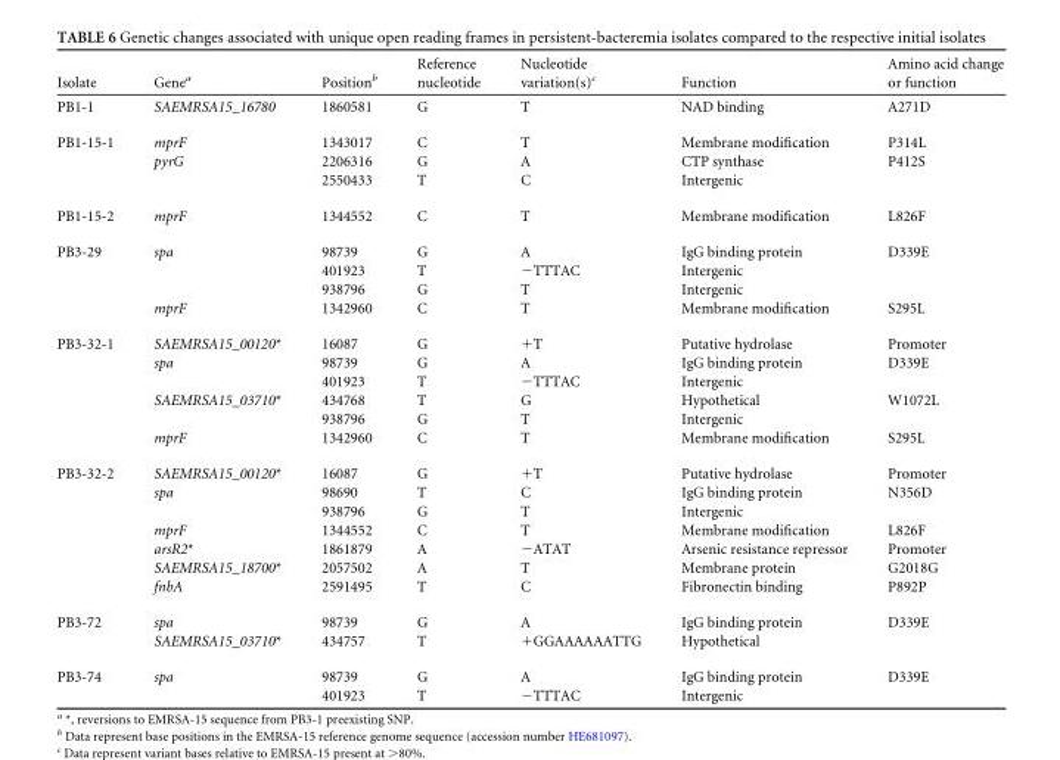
<table><thead><tr><td>Isolate</td><td>Gene<sup>a</sup></td><td>Position<sup>b</sup></td><td>Reference nucleotide</td><td>Nucleotide variation(s)<sup>c</sup></td><td>Function</td><td>Amino acid change or function</td></tr></thead><tbody><tr><td>PB1-1</td><td>SAEMRSA15_16780</td><td>1860581</td><td>G</td><td>T</td><td>NAD binding</td><td>A271D</td></tr><tr><td rowspan="3">PB1-15-1</td><td>mprF</td><td>1343017</td><td>C</td><td>T</td><td>Membrane modification</td><td>P314L</td></tr><tr><td>pyrG</td><td>2206316</td><td>G</td><td>A</td><td>CTP synthase</td><td>P412S</td></tr><tr><td></td><td>2550433</td><td>T</td><td>C</td><td>Intergenic</td><td></td></tr><tr><td>PB1-15-2</td><td>mprF</td><td>1344552</td><td>C</td><td>T</td><td>Membrane modification</td><td>L826F</td></tr><tr><td rowspan="4">PB3-29</td><td>spa</td><td>98739</td><td>G</td><td>A</td><td>IgG binding protein</td><td>D339E</td></tr><tr><td></td><td>401923</td><td>T</td><td>−TTTAC</td><td>Intergenic</td><td></td></tr><tr><td></td><td>938796</td><td>G</td><td>T</td><td>Intergenic</td><td></td></tr><tr><td>mprF</td><td>1342960</td><td>C</td><td>T</td><td>Membrane modification</td><td>S295L</td></tr><tr><td rowspan="6">PB3-32-1</td><td>SAEMRSA15_00120*</td><td>16087</td><td>G</td><td>+T</td><td>Putative hydrolase</td><td>Promoter</td></tr><tr><td>spa</td><td>98739</td><td>G</td><td>A</td><td>IgG binding protein</td><td>D339E</td></tr><tr><td></td><td>401923</td><td>T</td><td>−TTTAC</td><td>Intergenic</td><td></td></tr><tr><td>SAEMRSA15_03710*</td><td>434768</td><td>T</td><td>G</td><td>Hypothetical</td><td>W1072L</td></tr><tr><td></td><td>938796</td><td>G</td><td>T</td><td>Intergenic</td><td></td></tr><tr><td>mprF</td><td>1342960</td><td>C</td><td>T</td><td>Membrane modification</td><td>S295L</td></tr><tr><td rowspan="7">PB3-32-2</td><td>SAEMRSA15_00120*</td><td>16087</td><td>G</td><td>+T</td><td>Putative hydrolase</td><td>Promoter</td></tr><tr><td>spa</td><td>98690</td><td>T</td><td>C</td><td>IgG binding protein</td><td>N356D</td></tr><tr><td></td><td>938796</td><td>G</td><td>T</td><td>Intergenic</td><td></td></tr><tr><td>mprF</td><td>1344552</td><td>C</td><td>T</td><td>Membrane modification</td><td>L826F</td></tr><tr><td>arsR2*</td><td>1861879</td><td>A</td><td>−ATAT</td><td>Arsenic resistance repressor</td><td>Promoter</td></tr><tr><td>SAEMRSA15_18700*</td><td>2057502</td><td>A</td><td>T</td><td>Membrane protein</td><td>G2018G</td></tr><tr><td>fnbA</td><td>2591495</td><td>T</td><td>C</td><td>Fibronectin binding</td><td>P892P</td></tr><tr><td rowspan="2">PB3-72</td><td>spa</td><td>98739</td><td>G</td><td>A</td><td>IgG binding protein</td><td>D339E</td></tr><tr><td>SAEMRSA15_03710*</td><td>434757</td><td>T</td><td>+GGAAAAAATTG</td><td>Hypothetical</td><td></td></tr><tr><td rowspan="2">PB3-74</td><td>spa</td><td>98739</td><td>G</td><td>A</td><td>IgG binding protein</td><td>D339E</td></tr><tr><td></td><td>401923</td><td>T</td><td>−TTTAC</td><td>Intergenic</td><td></td></tr></tbody></table>